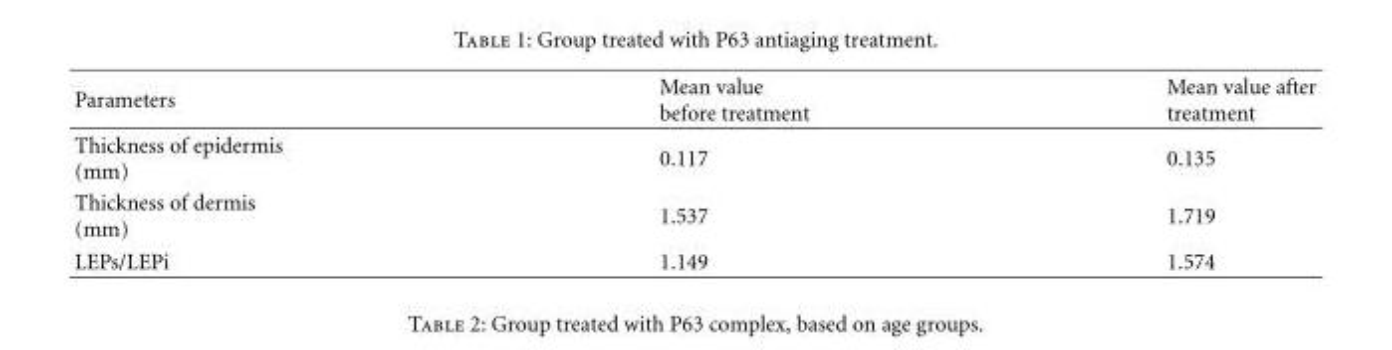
<table><thead><tr><td>Parameters</td><td>Mean value before treatment</td><td>Mean value after treatment</td></tr></thead><tbody><tr><td>Thickness of epidermis (mm)</td><td>0.117</td><td>0.135</td></tr><tr><td>Thickness of dermis (mm)</td><td>1.537</td><td>1.719</td></tr><tr><td>LEPs/LEPi</td><td>1.149</td><td>1.574</td></tr></tbody></table>